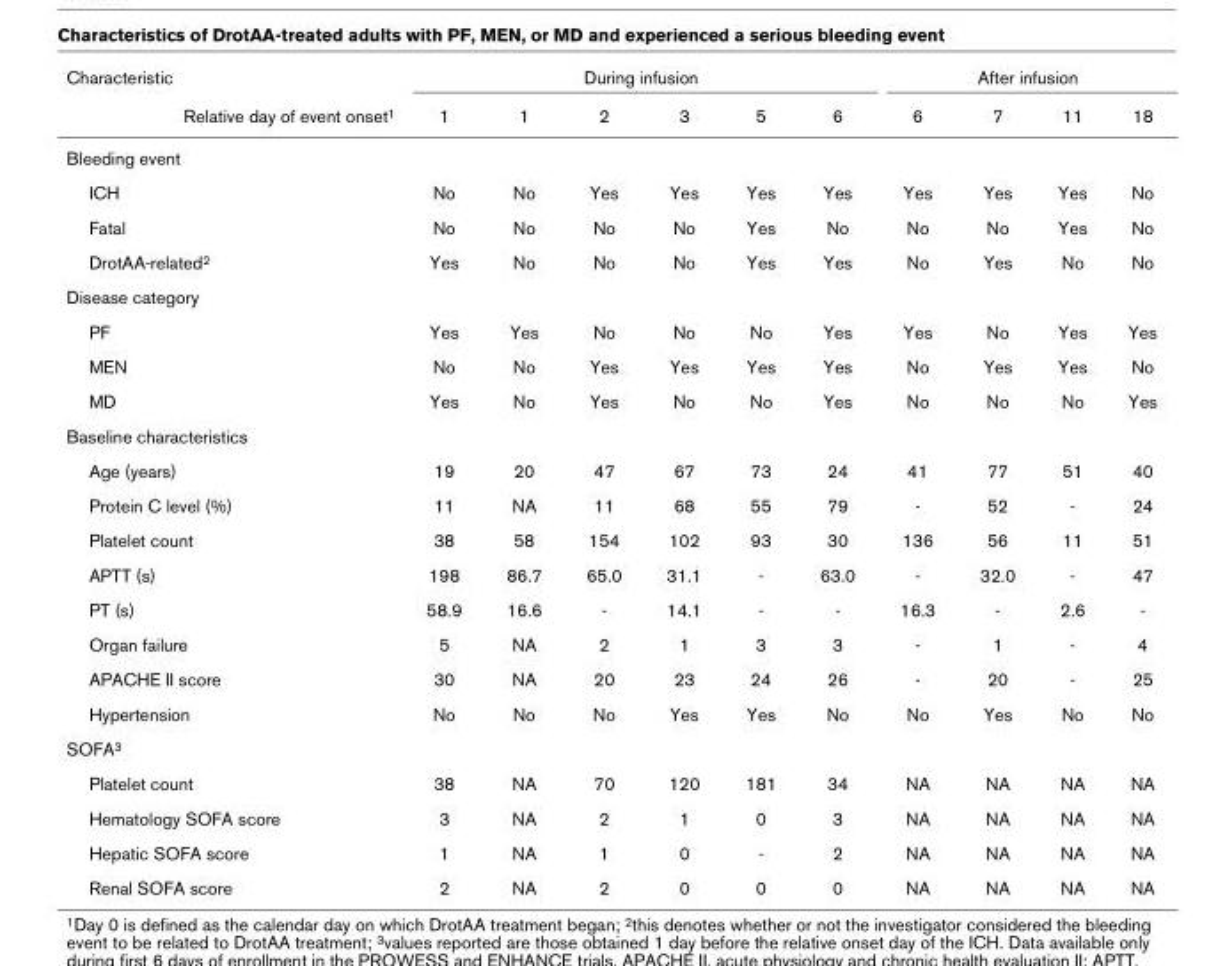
<table><thead><tr><td rowspan="2">Characteristic Relative day of event onset1</td><td colspan="6">During infusion</td><td colspan="4">After infusion</td></tr><tr><td>1</td><td>1</td><td>2</td><td>3</td><td>5</td><td>6</td><td>6</td><td>7</td><td>11</td><td>18</td></tr></thead><tbody><tr><td colspan="11">Bleeding event</td></tr><tr><td>ICH</td><td>No</td><td>No</td><td>Yes</td><td>Yes</td><td>Yes</td><td>Yes</td><td>Yes</td><td>Yes</td><td>Yes</td><td>No</td></tr><tr><td>Fatal</td><td>No</td><td>No</td><td>No</td><td>No</td><td>Yes</td><td>No</td><td>No</td><td>No</td><td>Yes</td><td>No</td></tr><tr><td>DrotAA-related2</td><td>Yes</td><td>No</td><td>No</td><td>No</td><td>Yes</td><td>Yes</td><td>No</td><td>Yes</td><td>No</td><td>No</td></tr><tr><td colspan="11">Disease category</td></tr><tr><td>PF</td><td>Yes</td><td>Yes</td><td>No</td><td>No</td><td>No</td><td>Yes</td><td>Yes</td><td>No</td><td>Yes</td><td>Yes</td></tr><tr><td>MEN</td><td>No</td><td>No</td><td>Yes</td><td>Yes</td><td>Yes</td><td>Yes</td><td>No</td><td>Yes</td><td>Yes</td><td>No</td></tr><tr><td>MD</td><td>Yes</td><td>No</td><td>Yes</td><td>No</td><td>No</td><td>Yes</td><td>No</td><td>No</td><td>No</td><td>Yes</td></tr><tr><td colspan="11">Baseline characteristics</td></tr><tr><td>Age (years)</td><td>19</td><td>20</td><td>47</td><td>67</td><td>73</td><td>24</td><td>41</td><td>77</td><td>51</td><td>40</td></tr><tr><td>Protein C level (%)</td><td>11</td><td>NA</td><td>11</td><td>68</td><td>55</td><td>79</td><td>-</td><td>52</td><td>-</td><td>24</td></tr><tr><td>Platelet count</td><td>38</td><td>58</td><td>154</td><td>102</td><td>93</td><td>30</td><td>136</td><td>56</td><td>11</td><td>51</td></tr><tr><td>APTT (s)</td><td>198</td><td>86.7</td><td>65.0</td><td>31.1</td><td>-</td><td>63.0</td><td>-</td><td>32.0</td><td>-</td><td>47</td></tr><tr><td>PT (s)</td><td>58.9</td><td>16.6</td><td>-</td><td>14.1</td><td>-</td><td>-</td><td>16.3</td><td>-</td><td>2.6</td><td>-</td></tr><tr><td>Organ failure</td><td>5</td><td>NA</td><td>2</td><td>1</td><td>3</td><td>3</td><td>-</td><td>1</td><td>-</td><td>4</td></tr><tr><td>APACHE II score</td><td>30</td><td>NA</td><td>20</td><td>23</td><td>24</td><td>26</td><td>-</td><td>20</td><td>-</td><td>25</td></tr><tr><td>Hypertension</td><td>No</td><td>No</td><td>No</td><td>Yes</td><td>Yes</td><td>No</td><td>No</td><td>Yes</td><td>No</td><td>No</td></tr><tr><td colspan="11">SOFA3</td></tr><tr><td>Platelet count</td><td>38</td><td>NA</td><td>70</td><td>120</td><td>181</td><td>34</td><td>NA</td><td>NA</td><td>NA</td><td>NA</td></tr><tr><td>Hematology SOFA score</td><td>3</td><td>NA</td><td>2</td><td>1</td><td>0</td><td>3</td><td>NA</td><td>NA</td><td>NA</td><td>NA</td></tr><tr><td>Hepatic SOFA score</td><td>1</td><td>NA</td><td>1</td><td>0</td><td>-</td><td>2</td><td>NA</td><td>NA</td><td>NA</td><td>NA</td></tr><tr><td>Renal SOFA score</td><td>2</td><td>NA</td><td>2</td><td>0</td><td>0</td><td>0</td><td>NA</td><td>NA</td><td>NA</td><td>NA</td></tr></tbody></table>